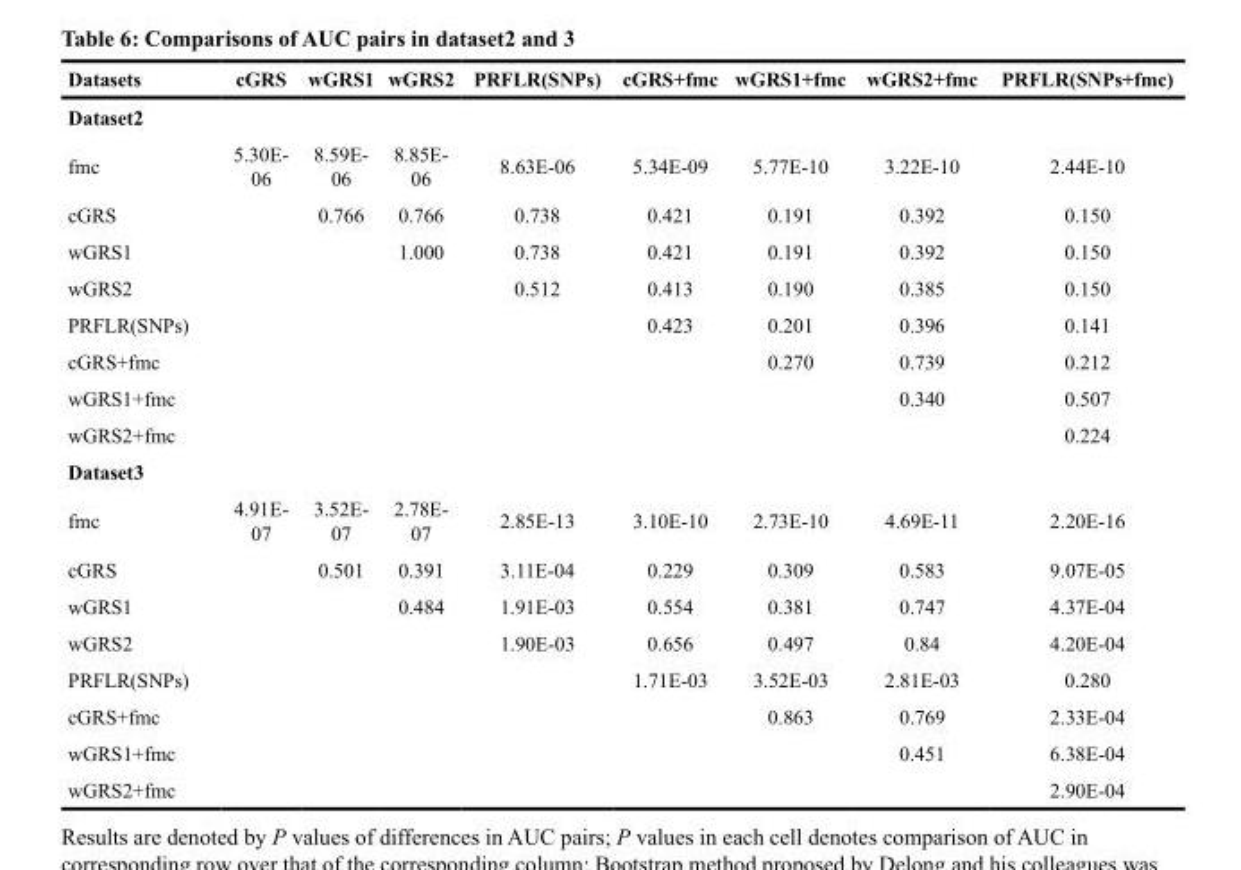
<table><thead><tr><td>Datasets</td><td>cGRS</td><td>wGRS1</td><td>wGRS2</td><td>PRFLR(SNPs)</td><td>cGRS+fmc</td><td>wGRS1+fmc</td><td>wGRS2+fmc</td><td>PRFLR(SNPs+fmc)</td></tr></thead><tbody><tr><td colspan="9">Dataset2</td></tr><tr><td>fmc</td><td>5.30E- 06</td><td>8.59E- 06</td><td>8.85E- 06</td><td>8.63E-06</td><td>5.34E-09</td><td>5.77E-10</td><td>3.22E-10</td><td>2.44E-10</td></tr><tr><td>cGRS</td><td></td><td>0.766</td><td>0.766</td><td>0.738</td><td>0.421</td><td>0.191</td><td>0.392</td><td>0.150</td></tr><tr><td>wGRS1</td><td></td><td></td><td>1.000</td><td>0.738</td><td>0.421</td><td>0.191</td><td>0.392</td><td>0.150</td></tr><tr><td>wGRS2</td><td></td><td></td><td></td><td>0.512</td><td>0.413</td><td>0.190</td><td>0.385</td><td>0.150</td></tr><tr><td>PRFLR(SNPs)</td><td></td><td></td><td></td><td></td><td>0.423</td><td>0.201</td><td>0.396</td><td>0.141</td></tr><tr><td>cGRS+fmc</td><td></td><td></td><td></td><td></td><td></td><td>0.270</td><td>0.739</td><td>0.212</td></tr><tr><td>wGRS1+fmc</td><td></td><td></td><td></td><td></td><td></td><td></td><td>0.340</td><td>0.507</td></tr><tr><td>wGRS2+fmc</td><td></td><td></td><td></td><td></td><td></td><td></td><td></td><td>0.224</td></tr><tr><td colspan="9">Dataset3</td></tr><tr><td>fmc</td><td>4.91E- 07</td><td>3.52E- 07</td><td>2.78E- 07</td><td>2.85E-13</td><td>3.10E-10</td><td>2.73E-10</td><td>4.69E-11</td><td>2.20E-16</td></tr><tr><td>cGRS</td><td></td><td>0.501</td><td>0.391</td><td>3.11E-04</td><td>0.229</td><td>0.309</td><td>0.583</td><td>9.07E-05</td></tr><tr><td>wGRS1</td><td></td><td></td><td>0.484</td><td>1.91E-03</td><td>0.554</td><td>0.381</td><td>0.747</td><td>4.37E-04</td></tr><tr><td>wGRS2</td><td></td><td></td><td></td><td>1.90E-03</td><td>0.656</td><td>0.497</td><td>0.84</td><td>4.20E-04</td></tr><tr><td>PRFLR(SNPs)</td><td></td><td></td><td></td><td></td><td>1.71E-03</td><td>3.52E-03</td><td>2.81E-03</td><td>0.280</td></tr><tr><td>cGRS+fmc</td><td></td><td></td><td></td><td></td><td></td><td>0.863</td><td>0.769</td><td>2.33E-04</td></tr><tr><td>wGRS1+fmc</td><td></td><td></td><td></td><td></td><td></td><td></td><td>0.451</td><td>6.38E-04</td></tr><tr><td>wGRS2+fmc</td><td></td><td></td><td></td><td></td><td></td><td></td><td></td><td>2.90E-04</td></tr></tbody></table>